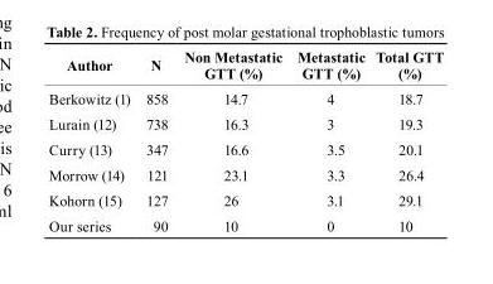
<table><thead><tr><td>Author</td><td>n</td><td>non Metastatic Gtt (%)</td><td>Metastatic Gtt (%)</td><td>total Gtt (%)</td></tr></thead><tbody><tr><td>Berkowitz (1)</td><td>858</td><td>14.7</td><td>4</td><td>18.7</td></tr><tr><td>Lurain (12)</td><td>738</td><td>16.3</td><td>3</td><td>19.3</td></tr><tr><td>Curry (13)</td><td>347</td><td>16.6</td><td>3.5</td><td>20.1</td></tr><tr><td>Morrow (14)</td><td>121</td><td>23.1</td><td>3.3</td><td>26.4</td></tr><tr><td>Kohorn (15)</td><td>127</td><td>26</td><td>3.1</td><td>29.1</td></tr><tr><td>Our series</td><td>90</td><td>10</td><td>0</td><td>10</td></tr></tbody></table>